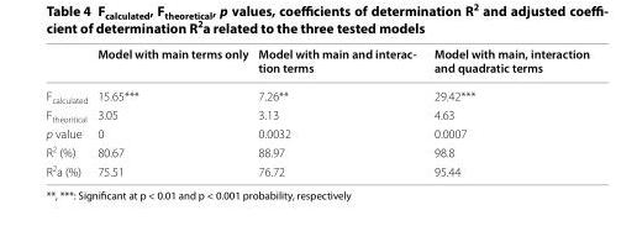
<table><thead><tr><td></td><td>Model with main terms only</td><td>Model with main and interac‑ tion terms</td><td>Model with main, interaction and quadratic terms</td></tr></thead><tbody><tr><td>F<sub>calculated</sub></td><td>15.65***</td><td>7.26**</td><td>29.42***</td></tr><tr><td>F<sub>theoritical</sub></td><td>3.05</td><td>3.13</td><td>4.63</td></tr><tr><td>p value</td><td>0</td><td>0.0032</td><td>0.0007</td></tr><tr><td>R<sup>2</sup> (%)</td><td>80.67</td><td>88.97</td><td>98.8</td></tr><tr><td>R<sup>2</sup>a (%)</td><td>75.51</td><td>76.72</td><td>95.44</td></tr></tbody></table>